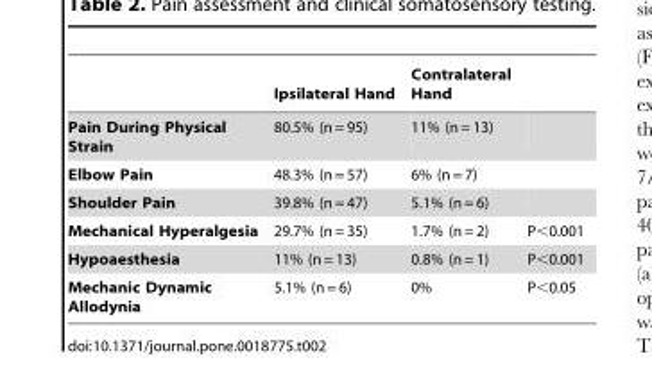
<table><thead><tr><td></td><td>Ipsilateral Hand</td><td>Contralateral Hand</td><td></td></tr></thead><tbody><tr><td>Pain During Physical Strain</td><td>80.5% (n = 95)</td><td>11% (n = 13)</td><td></td></tr><tr><td>Elbow Pain</td><td>48.3% (n = 57)</td><td>6% (n = 7)</td><td></td></tr><tr><td>Shoulder Pain</td><td>39.8% (n = 47)</td><td>5.1% (n = 6)</td><td></td></tr><tr><td>Mechanical Hyperalgesia</td><td>29.7% (n = 35)</td><td>1.7% (n = 2)</td><td>P&lt;0.001</td></tr><tr><td>Hypoaesthesia</td><td>11% (n = 13)</td><td>0.8% (n = 1)</td><td>P&lt;0.001</td></tr><tr><td>Mechanic Dynamic Allodynia</td><td>5.1% (n = 6)</td><td>0%</td><td>P&lt;0.05</td></tr></tbody></table>